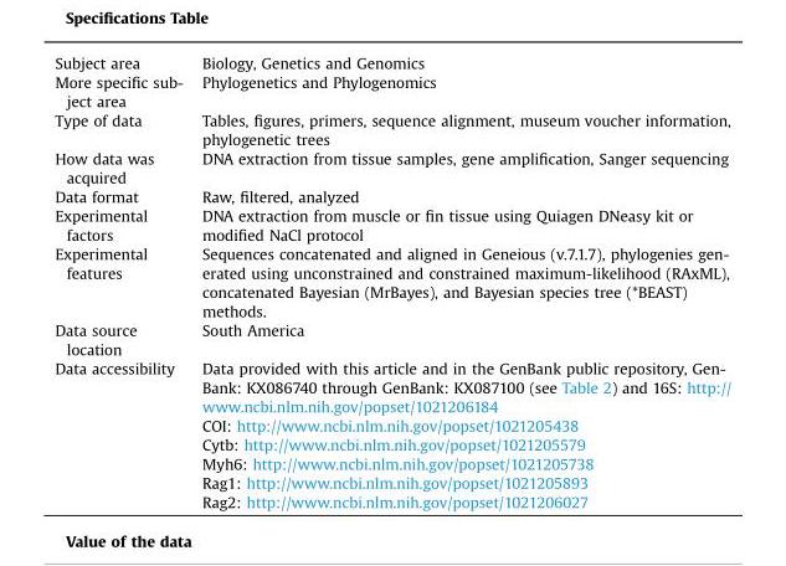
<table><tbody><tr><td>Subject area</td><td>Biology, Genetics and Genomics</td></tr><tr><td>More specific sub- ject area</td><td>Phylogenetics and Phylogenomics</td></tr><tr><td>Type of data</td><td>Tables, figures, primers, sequence alignment, museum voucher information, phylogenetic trees</td></tr><tr><td>How data was acquired</td><td>DNA extraction from tissue samples, gene amplification, Sanger sequencing</td></tr><tr><td>Data format</td><td>Raw, filtered, analyzed</td></tr><tr><td>Experimental factors</td><td>DNA extraction from muscle or fin tissue using Quiagen DNeasy kit or modified NaCl protocol</td></tr><tr><td>Experimental features</td><td>Sequences concatenated and aligned in Geneious (v.7.1.7), phylogenies gen- erated using unconstrained and constrained maximum-likelihood (RAxML), concatenated Bayesian (MrBayes), and Bayesian species tree (*BEAST) methods.</td></tr><tr><td>Data source location</td><td>South America</td></tr><tr><td rowspan="6">Data accessibility</td><td>Data provided with this article and in the GenBank public repository, Gen- Bank: KX086740 through GenBank: KX087100 (see Table 2) and 16S: http:// www.ncbi.nlm.nih.gov/popset/1021206184</td></tr><tr><td>COI: http://www.ncbi.nlm.nih.gov/popset/1021205438</td></tr><tr><td>Cytb: http://www.ncbi.nlm.nih.gov/popset/1021205579</td></tr><tr><td>Myh6: http://www.ncbi.nlm.nih.gov/popset/1021205738</td></tr><tr><td>Rag1: http://www.ncbi.nlm.nih.gov/popset/1021205893</td></tr><tr><td>Rag2: http://www.ncbi.nlm.nih.gov/popset/1021206027</td></tr></tbody></table>